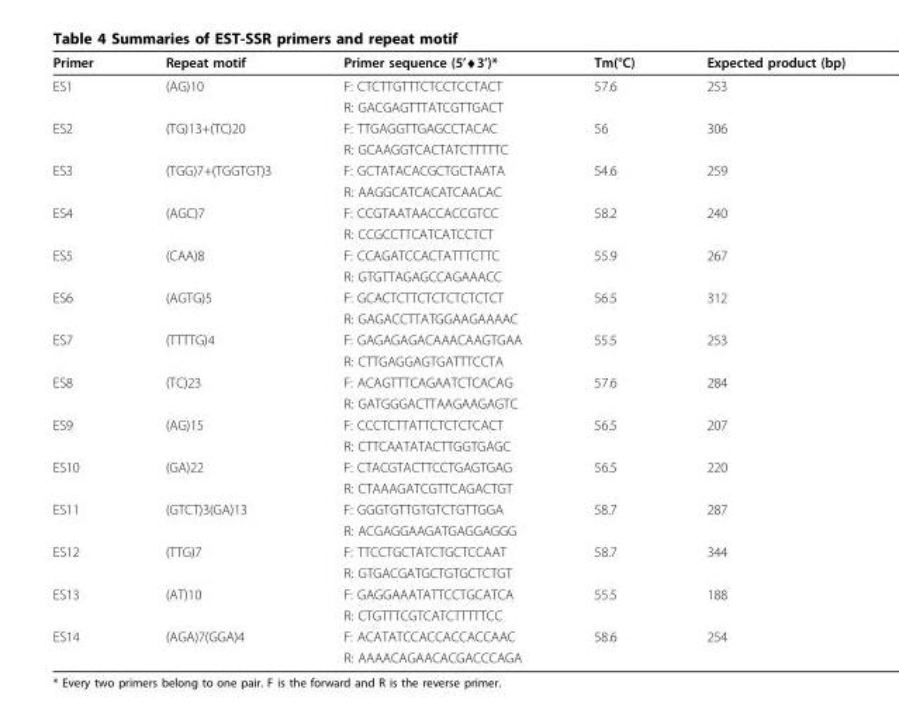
<table><thead><tr><td>Primer</td><td>Repeat motif</td><td>Primer sequence (5’→3’)*</td><td>Tm(°C)</td><td>Expected product (bp)</td></tr></thead><tbody><tr><td rowspan="2">ES1</td><td>(AG)10</td><td>F: CTCTTGTTTCTCCTCCTACT</td><td>57.6</td><td>253</td></tr><tr><td></td><td>R: GACGAGTTTATCGTTGACT</td><td></td><td></td></tr><tr><td rowspan="2">ES2</td><td>(TG)13+(TC)20</td><td>F: TTGAGGTTGAGCCTACAC</td><td>56</td><td>306</td></tr><tr><td></td><td>R: GCAAGGTCACTATCTTTTTC</td><td></td><td></td></tr><tr><td rowspan="2">ES3</td><td>(TGG)7+(TGGTGT)3</td><td>F: GCTATACACGCTGCTAATA</td><td>54.6</td><td>259</td></tr><tr><td></td><td>R: AAGGCATCACATCAACAC</td><td></td><td></td></tr><tr><td rowspan="2">ES4</td><td>(AGC)7</td><td>F: CCGTAATAACCACCGTCC</td><td>58.2</td><td>240</td></tr><tr><td></td><td>R: CCGCCTTCATCATCCTCT</td><td></td><td></td></tr><tr><td rowspan="2">ES5</td><td>(CAA)8</td><td>F: CCAGATCCACTATTTCTTC</td><td>55.9</td><td>267</td></tr><tr><td></td><td>R: GTGTTAGAGCCAGAAACC</td><td></td><td></td></tr><tr><td rowspan="2">ES6</td><td>(AGTG)5</td><td>F: GCACTCTTCTCTCTCTCTCT</td><td>56.5</td><td>312</td></tr><tr><td></td><td>R: GAGACCTTATGGAAGAAAAC</td><td></td><td></td></tr><tr><td rowspan="2">ES7</td><td>(TTTTG)4</td><td>F: GAGAGAGACAAACAAGTGAA</td><td>55.5</td><td>253</td></tr><tr><td></td><td>R: CTTGAGGAGTGATTTCCTA</td><td></td><td></td></tr><tr><td rowspan="2">ES8</td><td>(TC)23</td><td>F: ACAGTTTCAGAATCTCACAG</td><td>57.6</td><td>284</td></tr><tr><td></td><td>R: GATGGGACTTAAGAAGAGTC</td><td></td><td></td></tr><tr><td rowspan="2">ES9</td><td>(AG)15</td><td>F: CCCTCTTATTCTCTCTCACT</td><td>56.5</td><td>207</td></tr><tr><td></td><td>R: CTTCAATATACTTGGTGAGC</td><td></td><td></td></tr><tr><td rowspan="2">ES10</td><td>(GA)22</td><td>F: CTACGTACTTCCTGAGTGAG</td><td>56.5</td><td>220</td></tr><tr><td></td><td>R: CTAAAGATCGTTCAGACTGT</td><td></td><td></td></tr><tr><td rowspan="2">ES11</td><td>(GTCT)3(GA)13</td><td>F: GGGTGTTGTGTCTGTTGGA</td><td>58.7</td><td>287</td></tr><tr><td></td><td>R: ACGAGGAAGATGAGGAGGG</td><td></td><td></td></tr><tr><td rowspan="2">ES12</td><td>(TTG)7</td><td>F: TTCCTGCTATCTGCTCCAAT</td><td>58.7</td><td>344</td></tr><tr><td></td><td>R: GTGACGATGCTGTGCTCTGT</td><td></td><td></td></tr><tr><td rowspan="2">ES13</td><td>(AT)10</td><td>F: GAGGAAATATTCCTGCATCA</td><td>55.5</td><td>188</td></tr><tr><td></td><td>R: CTGTTTCGTCATCTTTTTCC</td><td></td><td></td></tr><tr><td rowspan="2">ES14</td><td>(AGA)7(GGA)4</td><td>F: ACATATCCACCACCACCAAC</td><td>58.6</td><td>254</td></tr><tr><td></td><td>R: AAAACAGAACACGACCCAGA</td><td></td><td></td></tr></tbody></table>